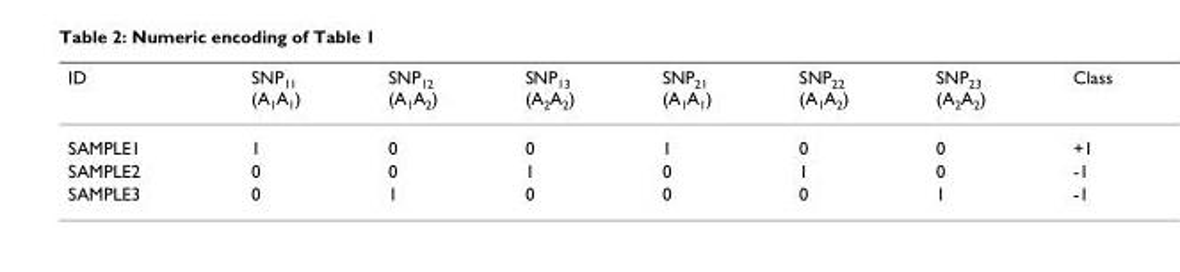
<table><thead><tr><td>ID</td><td>SNP<sub>11</sub> (A<sub>1</sub>A<sub>1</sub>)</td><td>SNP<sub>12</sub> (A<sub>1</sub>A<sub>2</sub>)</td><td>SNP<sub>13</sub> (A<sub>2</sub>A<sub>2</sub>)</td><td>SNP<sub>21</sub> (A<sub>1</sub>A<sub>1</sub>)</td><td>SNP<sub>22</sub> (A<sub>1</sub>A<sub>2</sub>)</td><td>SNP<sub>23</sub> (A<sub>2</sub>A<sub>2</sub>)</td><td>Class</td></tr></thead><tbody><tr><td>SAMPLE1</td><td>1</td><td>0</td><td>0</td><td>1</td><td>0</td><td>0</td><td>+1</td></tr><tr><td>SAMPLE2</td><td>0</td><td>0</td><td>1</td><td>0</td><td>1</td><td>0</td><td>-1</td></tr><tr><td>SAMPLE3</td><td>0</td><td>1</td><td>0</td><td>0</td><td>0</td><td>1</td><td>-1</td></tr></tbody></table>